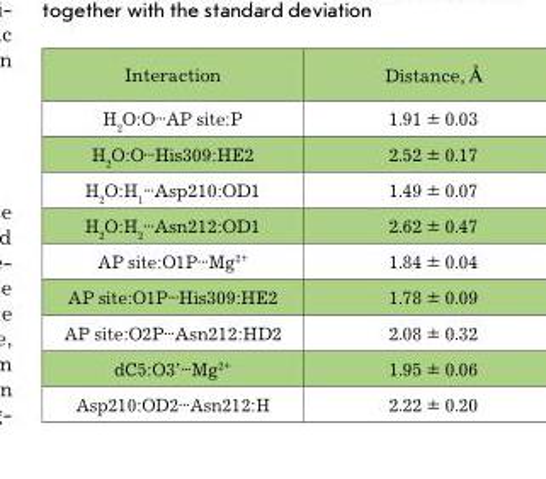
<table><thead><tr><td>Interaction</td><td>Distance, Å</td></tr></thead><tbody><tr><td>H<sub>2</sub>O:O···AP site:P</td><td>1.91 ± 0.03</td></tr><tr><td>H<sub>2</sub>O:O···His309:He2</td><td>2.52 ± 0.17</td></tr><tr><td>H<sub>2</sub>O:H<sub>1</sub>···Asp210:OD1</td><td>1.49 ± 0.07</td></tr><tr><td>H<sub>2</sub>O:H<sub>2</sub>···Asn212:OD1</td><td>2.62 ± 0.47</td></tr><tr><td>AP site:O1P···Mg<sup>2+</sup></td><td>1.84 ± 0.04</td></tr><tr><td>AP site:O1P···His309:He2</td><td>1.78 ± 0.09</td></tr><tr><td>AP site:O2P···Asn212:HD2</td><td>2.08 ± 0.32</td></tr><tr><td>dc5:O3’···Mg<sup>2+</sup></td><td>1.95 ± 0.06</td></tr><tr><td>Asp210:OD2···Asn212:H</td><td>2.22 ± 0.20</td></tr></tbody></table>